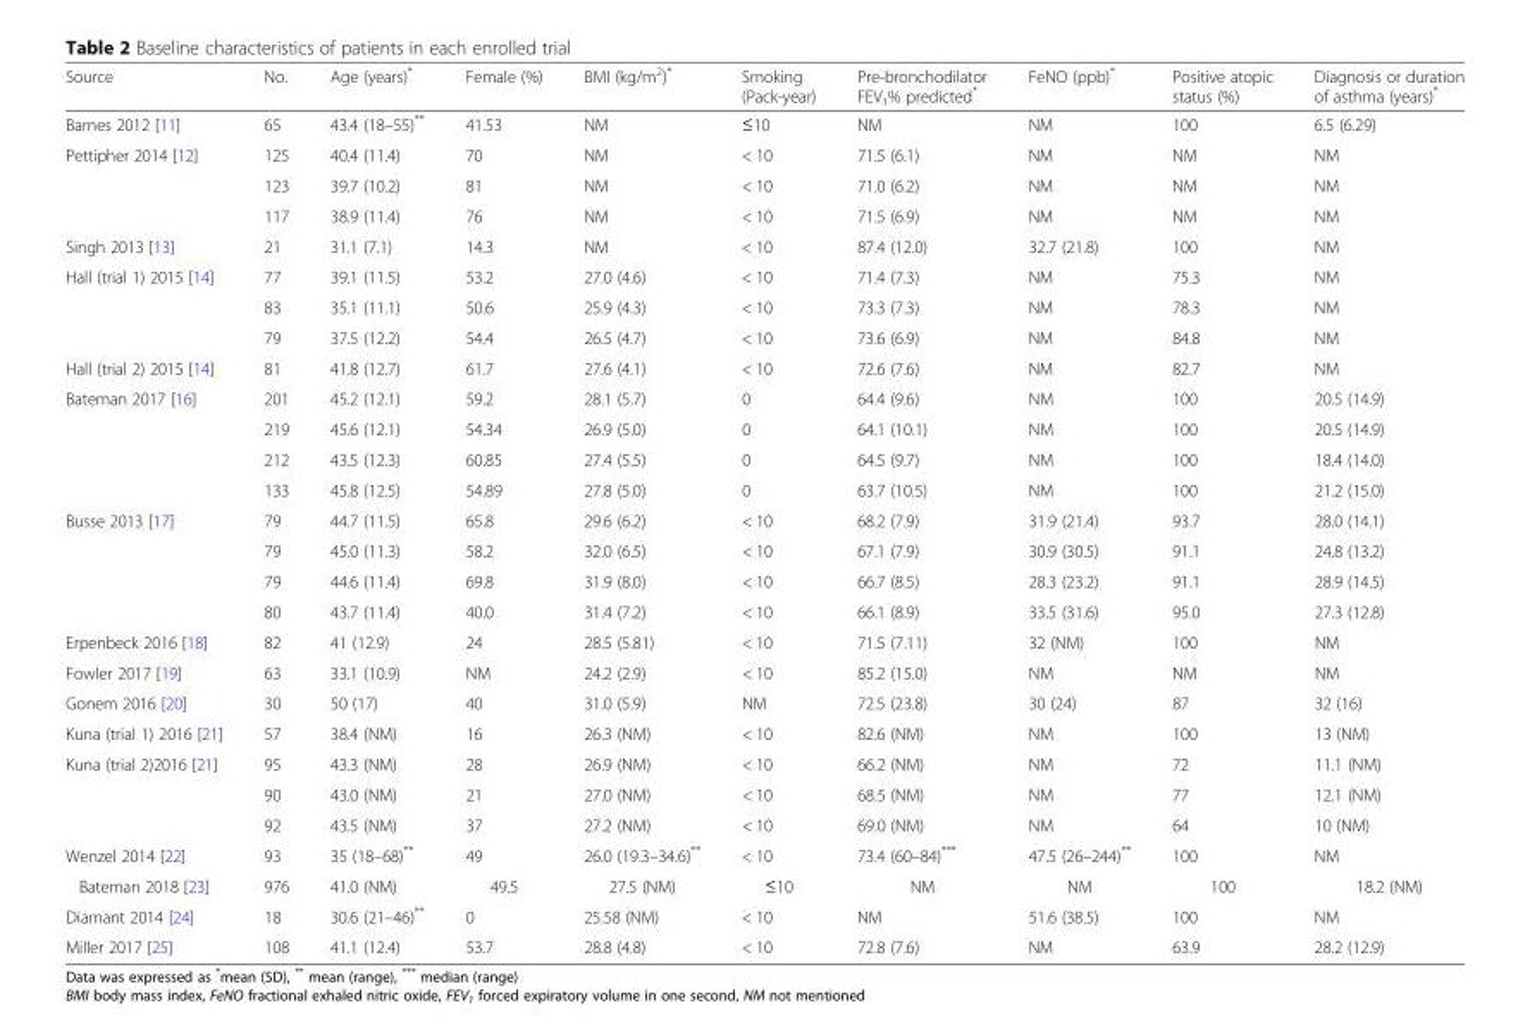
<table><thead><tr><td>Source</td><td>No.</td><td>Age (years)*</td><td>Female (%)</td><td>BMI (kg/m<sup>2</sup>)*</td><td>Smoking (Pack-year)</td><td>Pre-bronchodilator FEV<sub>1</sub>% predicted*</td><td>FeNO (ppb)*</td><td>Positive atopic status (%)</td><td>Diagnosis or duration of asthma (years)*</td></tr></thead><tbody><tr><td>Barnes 2012 [11]</td><td>65</td><td>43.4 (18–55)**</td><td>41.53</td><td>NM</td><td>≤10</td><td>NM</td><td>NM</td><td>100</td><td>6.5 (6.29)</td></tr><tr><td rowspan="3">Pettipher 2014 [12]</td><td>125</td><td>40.4 (11.4)</td><td>70</td><td>NM</td><td>&lt; 10</td><td>71.5 (6.1)</td><td>NM</td><td>NM</td><td>NM</td></tr><tr><td>123</td><td>39.7 (10.2)</td><td>81</td><td>NM</td><td>&lt; 10</td><td>71.0 (6.2)</td><td>NM</td><td>NM</td><td>NM</td></tr><tr><td>117</td><td>38.9 (11.4)</td><td>76</td><td>NM</td><td>&lt; 10</td><td>71.5 (6.9)</td><td>NM</td><td>NM</td><td>NM</td></tr><tr><td>Singh 2013 [13]</td><td>21</td><td>31.1 (7.1)</td><td>14.3</td><td>NM</td><td>&lt; 10</td><td>87.4 (12.0)</td><td>32.7 (21.8)</td><td>100</td><td>NM</td></tr><tr><td rowspan="3">Hall (trial 1) 2015 [14]</td><td>77</td><td>39.1 (11.5)</td><td>53.2</td><td>27.0 (4.6)</td><td>&lt; 10</td><td>71.4 (7.3)</td><td>NM</td><td>75.3</td><td>NM</td></tr><tr><td>83</td><td>35.1 (11.1)</td><td>50.6</td><td>25.9 (4.3)</td><td>&lt; 10</td><td>73.3 (7.3)</td><td>NM</td><td>78.3</td><td>NM</td></tr><tr><td>79</td><td>37.5 (12.2)</td><td>54.4</td><td>26.5 (4.7)</td><td>&lt; 10</td><td>73.6 (6.9)</td><td>NM</td><td>84.8</td><td>NM</td></tr><tr><td>Hall (trial 2) 2015 [14]</td><td>81</td><td>41.8 (12.7)</td><td>61.7</td><td>27.6 (4.1)</td><td>&lt; 10</td><td>72.6 (7.6)</td><td>NM</td><td>82.7</td><td>NM</td></tr><tr><td rowspan="4">Bateman 2017 [16]</td><td>201</td><td>45.2 (12.1)</td><td>59.2</td><td>28.1 (5.7)</td><td>0</td><td>64.4 (9.6)</td><td>NM</td><td>100</td><td>20.5 (14.9)</td></tr><tr><td>219</td><td>45.6 (12.1)</td><td>54.34</td><td>26.9 (5.0)</td><td>0</td><td>64.1 (10.1)</td><td>NM</td><td>100</td><td>20.5 (14.9)</td></tr><tr><td>212</td><td>43.5 (12.3)</td><td>60.85</td><td>27.4 (5.5)</td><td>0</td><td>64.5 (9.7)</td><td>NM</td><td>100</td><td>18.4 (14.0)</td></tr><tr><td>133</td><td>45.8 (12.5)</td><td>54.89</td><td>27.8 (5.0)</td><td>0</td><td>63.7 (10.5)</td><td>NM</td><td>100</td><td>21.2 (15.0)</td></tr><tr><td rowspan="4">Busse 2013 [17]</td><td>79</td><td>44.7 (11.5)</td><td>65.8</td><td>29.6 (6.2)</td><td>&lt; 10</td><td>68.2 (7.9)</td><td>31.9 (21.4)</td><td>93.7</td><td>28.0 (14.1)</td></tr><tr><td>79</td><td>45.0 (11.3)</td><td>58.2</td><td>32.0 (6.5)</td><td>&lt; 10</td><td>67.1 (7.9)</td><td>30.9 (30.5)</td><td>91.1</td><td>24.8 (13.2)</td></tr><tr><td>79</td><td>44.6 (11.4)</td><td>69.8</td><td>31.9 (8.0)</td><td>&lt; 10</td><td>66.7 (8.5)</td><td>28.3 (23.2)</td><td>91.1</td><td>28.9 (14.5)</td></tr><tr><td>80</td><td>43.7 (11.4)</td><td>40.0</td><td>31.4 (7.2)</td><td>&lt; 10</td><td>66.1 (8.9)</td><td>33.5 (31.6)</td><td>95.0</td><td>27.3 (12.8)</td></tr><tr><td>Erpenbeck 2016 [18]</td><td>82</td><td>41 (12.9)</td><td>24</td><td>28.5 (5.81)</td><td>&lt; 10</td><td>71.5 (7.11)</td><td>32 (NM)</td><td>100</td><td>NM</td></tr><tr><td>Fowler 2017 [19]</td><td>63</td><td>33.1 (10.9)</td><td>NM</td><td>24.2 (2.9)</td><td>&lt; 10</td><td>85.2 (15.0)</td><td>NM</td><td>NM</td><td>NM</td></tr><tr><td>Gonem 2016 [20]</td><td>30</td><td>50 (17)</td><td>40</td><td>31.0 (5.9)</td><td>NM</td><td>72.5 (23.8)</td><td>30 (24)</td><td>87</td><td>32 (16)</td></tr><tr><td>Kuna (trial 1) 2016 [21]</td><td>57</td><td>38.4 (NM)</td><td>16</td><td>26.3 (NM)</td><td>&lt; 10</td><td>82.6 (NM)</td><td>NM</td><td>100</td><td>13 (NM)</td></tr><tr><td rowspan="3">Kuna (trial 2)2016 [21]</td><td>95</td><td>43.3 (NM)</td><td>28</td><td>26.9 (NM)</td><td>&lt; 10</td><td>66.2 (NM)</td><td>NM</td><td>72</td><td>11.1 (NM)</td></tr><tr><td>90</td><td>43.0 (NM)</td><td>21</td><td>27.0 (NM)</td><td>&lt; 10</td><td>68.5 (NM)</td><td>NM</td><td>77</td><td>12.1 (NM)</td></tr><tr><td>92</td><td>43.5 (NM)</td><td>37</td><td>27.2 (NM)</td><td>&lt; 10</td><td>69.0 (NM)</td><td>NM</td><td>64</td><td>10 (NM)</td></tr><tr><td>Wenzel 2014 [22]</td><td>93</td><td>35 (18–68)**</td><td>49</td><td>26.0 (19.3–34.6)**</td><td>&lt; 10</td><td>73.4 (60–84)***</td><td>47.5 (26–244)**</td><td>100</td><td>NM</td></tr><tr><td>Bateman 2018 [23]</td><td>976</td><td>41.0 (NM)</td><td>49.5</td><td>27.5 (NM)</td><td>≤10</td><td>NM</td><td>NM</td><td>100</td><td>18.2 (NM)</td></tr><tr><td>Diamant 2014 [24]</td><td>18</td><td>30.6 (21–46)**</td><td>0</td><td>25.58 (NM)</td><td>&lt; 10</td><td>NM</td><td>51.6 (38.5)</td><td>100</td><td>NM</td></tr><tr><td>Miller 2017 [25]</td><td>108</td><td>41.1 (12.4)</td><td>53.7</td><td>28.8 (4.8)</td><td>&lt; 10</td><td>72.8 (7.6)</td><td>NM</td><td>63.9</td><td>28.2 (12.9)</td></tr></tbody></table>